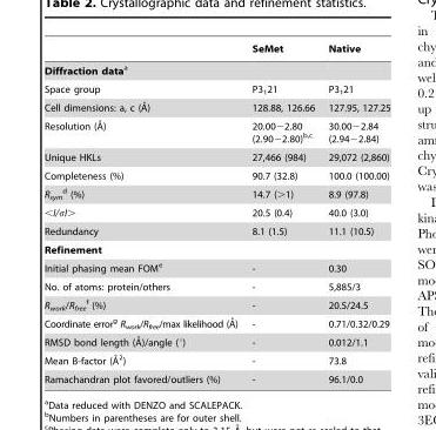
<table><thead><tr><td></td><td>SeMet</td><td>Native</td></tr></thead><tbody><tr><td colspan="3">Diffraction dataa</td></tr><tr><td>Space group</td><td>P3<sub>1</sub>21</td><td>P3<sub>1</sub>21</td></tr><tr><td>Cell dimensions: a, c (A˚)</td><td>128.88, 126.66</td><td>127.95, 127.25</td></tr><tr><td>Resolution (A˚)</td><td>20.00−2.80 (2.90−2.80)b,c</td><td>30.00−2.84 (2.94−2.84)</td></tr><tr><td>Unique HKLs</td><td>27,466 (984)</td><td>29,072 (2,860)</td></tr><tr><td>Completeness (%)</td><td>90.7 (32.8)</td><td>100.0 (100.00)</td></tr><tr><td>R<sub>sym</sub> d (%)</td><td>14.7 (&gt;1)</td><td>8.9 (97.8)</td></tr><tr><td>&lt;I/σI&gt;</td><td>20.5 (0.4)</td><td>40.0 (3.0)</td></tr><tr><td>Redundancy</td><td>8.1 (1.5)</td><td>11.1 (10.5)</td></tr><tr><td colspan="3">Refinement</td></tr><tr><td>Initial phasing mean FOM<sup>e</sup></td><td>-</td><td>0.30</td></tr><tr><td>No. of atoms: protein/others</td><td>-</td><td>5,885/3</td></tr><tr><td>R<sub>work</sub>/R<sub>free</sub> f (%)</td><td>-</td><td>20.5/24.5</td></tr><tr><td>Coordinate errorg Rwork/Rfree/max likelihood (A˚)</td><td>-</td><td>0.71/0.32/0.29</td></tr><tr><td>RMSD bond length (A˚)/angle (u)</td><td>-</td><td>0.012/1.1</td></tr><tr><td>Mean B-factor (A˚ 2)</td><td>-</td><td>73.8</td></tr><tr><td>Ramachandran plot favored/outliers (%)</td><td>-</td><td>96.1/0.0</td></tr></tbody></table>